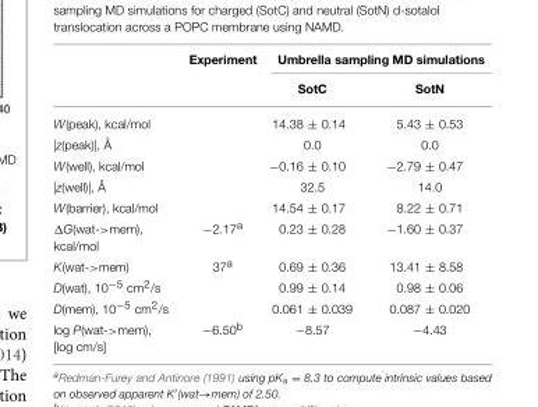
<table><thead><tr><td rowspan="2"></td><td rowspan="2">Experiment</td><td colspan="2">Umbrella sampling MD simulations</td></tr><tr><td>SotC</td><td>SotN</td></tr></thead><tbody><tr><td>W(peak), kcal/mol</td><td></td><td>14.38 ± 0.14</td><td>5.43 ± 0.53</td></tr><tr><td>|z(peak)|, Å</td><td></td><td>0.0</td><td>0.0</td></tr><tr><td>W(well), kcal/mol</td><td></td><td>−0.16 ± 0.10</td><td>−2.79 ± 0.47</td></tr><tr><td>|z(well)|, Å</td><td></td><td>32.5</td><td>14.0</td></tr><tr><td>W(barrier), kcal/mol</td><td></td><td>14.54 ± 0.17</td><td>8.22 ± 0.71</td></tr><tr><td>ΔG(wat-&gt;mem), kcal/mol</td><td>−2.17<sup>a</sup></td><td>0.23 ± 0.28</td><td>−1.60 ± 0.37</td></tr><tr><td>K(wat-&gt;mem)</td><td>37<sup>a</sup></td><td>0.69 ± 0.36</td><td>13.41 ± 8.58</td></tr><tr><td>D(wat), 10<sup>−5</sup> cm<sup>2</sup>/s</td><td></td><td>0.99 ± 0.14</td><td>0.98 ± 0.06</td></tr><tr><td>D(mem), 10<sup>−5</sup> cm<sup>2</sup>/s</td><td></td><td>0.061 ± 0.039</td><td>0.087 ± 0.020</td></tr><tr><td>log P(wat-&gt;mem), [log cm/s]</td><td>−6.50<sup>b</sup></td><td>−8.57</td><td>−4.43</td></tr></tbody></table>